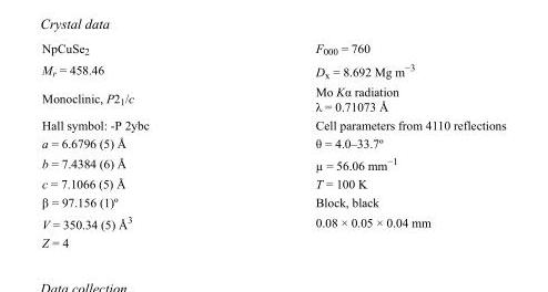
<table><tbody><tr><td>NpCuSe<sub>2</sub></td><td>F000 = 760</td></tr><tr><td>M<sub>r</sub> = 458.46</td><td>D<sub>x</sub> = 8.692 Mg m<sup>−3</sup></td></tr><tr><td>Monoclinic, P2<sub>1</sub>/c</td><td>Mo Kα radiation λ = 0.71073 Å</td></tr><tr><td>Hall symbol: -P 2ybc</td><td>Cell parameters from 4110 reflections</td></tr><tr><td>a = 6.6796 (5) Å</td><td>θ = 4.0–33.7º</td></tr><tr><td>b = 7.4384 (6) Å</td><td>µ = 56.06 mm<sup>−1</sup></td></tr><tr><td>c = 7.1066 (5) Å</td><td>T = 100 K</td></tr><tr><td>β = 97.156 (1)º</td><td>Block, black</td></tr><tr><td>V = 350.34 (5) Å<sup>3</sup></td><td>0.08 × 0.05 × 0.04 mm</td></tr><tr><td>Z = 4</td><td></td></tr></tbody></table>